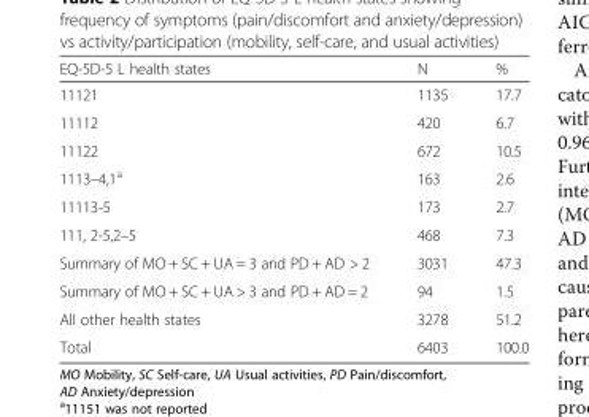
<table><thead><tr><td>EQ-5D-5 L health states</td><td>N</td><td>%</td></tr></thead><tbody><tr><td>11121</td><td>1135</td><td>17.7</td></tr><tr><td>11112</td><td>420</td><td>6.7</td></tr><tr><td>11122</td><td>672</td><td>10.5</td></tr><tr><td>1113–4,1<sup>a</sup></td><td>163</td><td>2.6</td></tr><tr><td>11113-5</td><td>173</td><td>2.7</td></tr><tr><td>111, 2-5,2–5</td><td>468</td><td>7.3</td></tr><tr><td>Summary of MO + SC + UA = 3 and PD + AD &gt; 2</td><td>3031</td><td>47.3</td></tr><tr><td>Summary of MO + SC + UA &gt; 3 and PD + AD = 2</td><td>94</td><td>1.5</td></tr><tr><td>All other health states</td><td>3278</td><td>51.2</td></tr><tr><td>Total</td><td>6403</td><td>100.0</td></tr></tbody></table>